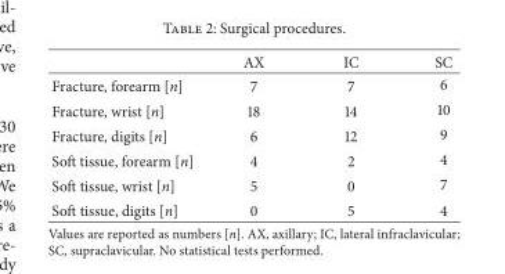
<table><thead><tr><td></td><td>AX</td><td>IC</td><td>SC</td></tr></thead><tbody><tr><td>Fracture, forearm [n]</td><td>7</td><td>7</td><td>6</td></tr><tr><td>Fracture, wrist [n]</td><td>18</td><td>14</td><td>10</td></tr><tr><td>Fracture, digits [n]</td><td>6</td><td>12</td><td>9</td></tr><tr><td>Soft tissue, forearm [n]</td><td>4</td><td>2</td><td>4</td></tr><tr><td>Soft tissue, wrist [n]</td><td>5</td><td>0</td><td>7</td></tr><tr><td>Soft tissue, digits [n]</td><td>0</td><td>5</td><td>4</td></tr></tbody></table>